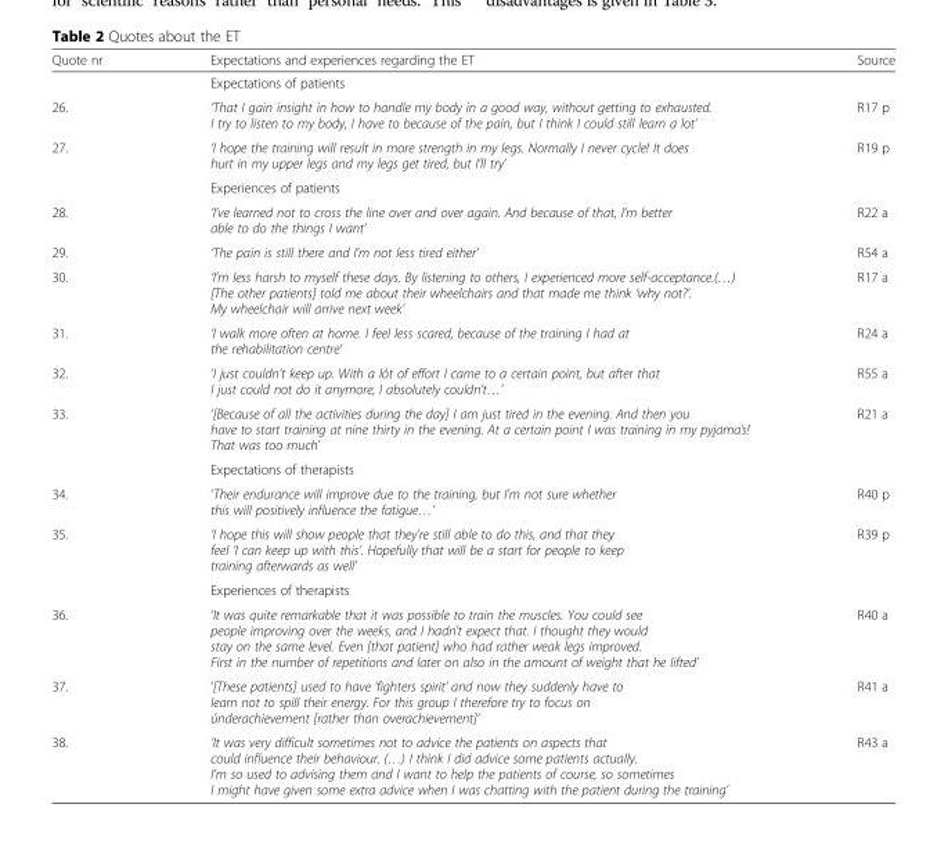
<table><thead><tr><td>Quote nr</td><td>Expectations and experiences regarding the ET</td><td>Source</td></tr></thead><tbody><tr><td></td><td>Expectations of patients</td><td></td></tr><tr><td>26.</td><td>‘That I gain insight in how to handle my body in a good way, without getting to exhausted. I try to listen to my body, I have to because of the pain, but I think I could still learn a lot’</td><td>R17 p</td></tr><tr><td rowspan="2">27.</td><td>‘I hope the training will result in more strength in my legs. Normally I never cycle! It does hurt in my upper legs and my legs get tired, but I’ll try’</td><td>R19 p</td></tr><tr><td>Experiences of patients</td><td></td></tr><tr><td>28.</td><td>‘I’ve learned not to cross the line over and over again. And because of that, I’m better able to do the things I want’</td><td>R22 a</td></tr><tr><td>29.</td><td>‘The pain is still there and I’m not less tired either’</td><td>R54 a</td></tr><tr><td>30.</td><td>‘I’m less harsh to myself these days. By listening to others, I experienced more self-acceptance.(…) [The other patients] told me about their wheelchairs and that made me think ‘why not?’. My wheelchair will arrive next week’</td><td>R17 a</td></tr><tr><td>31.</td><td>‘I walk more often at home. I feel less scared, because of the training I had at the rehabilitation centre’</td><td>R24 a</td></tr><tr><td>32.</td><td>‘I just couldn’t keep up. With a lót of effort I came to a certain point, but after that I just could not do it anymore, I absolutely couldn’t…’</td><td>R55 a</td></tr><tr><td rowspan="2">33.</td><td>‘[Because of all the activities during the day] I am just tired in the evening. And then you have to start training at nine thirty in the evening. At a certain point I was training in my pyjama’s! That was too much’</td><td>R21 a</td></tr><tr><td>Expectations of therapists</td><td></td></tr><tr><td>34.</td><td>‘Their endurance will improve due to the training, but I’m not sure whether this will positively influence the fatigue…’</td><td>R40 p</td></tr><tr><td rowspan="2">35.</td><td>‘I hope this will show people that they’re still able to do this, and that they feel ‘I can keep up with this’. Hopefully that will be a start for people to keep training afterwards as well’</td><td>R39 p</td></tr><tr><td>Experiences of therapists</td><td></td></tr><tr><td>36.</td><td>‘It was quite remarkable that it was possible to train the muscles. You could see people improving over the weeks, and I hadn’t expect that. I thought they would stay on the same level. Even [that patient] who had rather weak legs improved. First in the number of repetitions and later on also in the amount of weight that he lifted’</td><td>R40 a</td></tr><tr><td>37.</td><td>‘[These patients] used to have ‘fighters spirit’ and now they suddenly have to learn not to spill their energy. For this group I therefore try to focus on únderachievement [rather than overachievement]’</td><td>R41 a</td></tr><tr><td>38.</td><td>‘It was very difficult sometimes not to advice the patients on aspects that could influence their behaviour. (…) I think I did advice some patients actually. I’m so used to advising them and I want to help the patients of course, so sometimes I might have given some extra advice when I was chatting with the patient during the training’</td><td>R43 a</td></tr></tbody></table>